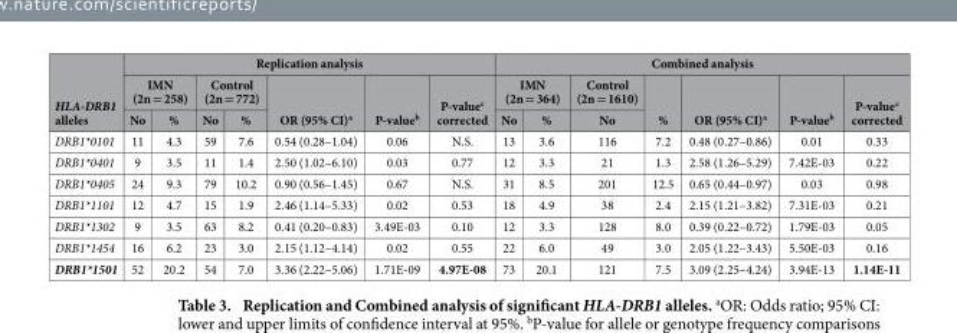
<table><thead><tr><td rowspan="3">HLA-DRB1 alleles</td><td colspan="7">Replication analysis</td><td colspan="7">Combined analysis</td></tr><tr><td colspan="2">IMN (2n = 258)</td><td colspan="2">Control (2n = 772)</td><td rowspan="2">OR (95% CI)<sup>a</sup></td><td rowspan="2">P-value<sup>b</sup></td><td rowspan="2">P-value<sup>c</sup> corrected</td><td colspan="2">IMN (2n = 364)</td><td rowspan="2">Control (2n = 1610) No</td><td rowspan="2">%</td><td rowspan="2">OR (95% CI)<sup>a</sup></td><td rowspan="2">P-value<sup>b</sup></td><td rowspan="2">P-value<sup>c</sup> corrected</td></tr><tr><td>No</td><td>%</td><td>No</td><td>%</td><td>No</td><td>%</td></tr></thead><tbody><tr><td>DRB1*0101</td><td>11</td><td>4.3</td><td>59</td><td>7.6</td><td>0.54 (0.28–1.04)</td><td>0.06</td><td>N.S.</td><td>13</td><td>3.6</td><td>116</td><td>7.2</td><td>0.48 (0.27–0.86)</td><td>0.01</td><td>0.33</td></tr><tr><td>DRB1*0401</td><td>9</td><td>3.5</td><td>11</td><td>1.4</td><td>2.50 (1.02–6.10)</td><td>0.03</td><td>0.77</td><td>12</td><td>3.3</td><td>21</td><td>1.3</td><td>2.58 (1.26–5.29)</td><td>7.42E-03</td><td>0.22</td></tr><tr><td>DRB1*0405</td><td>24</td><td>9.3</td><td>79</td><td>10.2</td><td>0.90 (0.56–1.45)</td><td>0.67</td><td>N.S.</td><td>31</td><td>8.5</td><td>201</td><td>12.5</td><td>0.65 (0.44–0.97)</td><td>0.03</td><td>0.98</td></tr><tr><td>DRB1*1101</td><td>12</td><td>4.7</td><td>15</td><td>1.9</td><td>2.46 (1.14–5.33)</td><td>0.02</td><td>0.53</td><td>18</td><td>4.9</td><td>38</td><td>2.4</td><td>2.15 (1.21–3.82)</td><td>7.31E-03</td><td>0.21</td></tr><tr><td>DRB1*1302</td><td>9</td><td>3.5</td><td>63</td><td>8.2</td><td>0.41 (0.20–0.83)</td><td>3.49E-03</td><td>0.10</td><td>12</td><td>3.3</td><td>128</td><td>8.0</td><td>0.39 (0.22–0.72)</td><td>1.79E-03</td><td>0.05</td></tr><tr><td>DRB1*1454</td><td>16</td><td>6.2</td><td>23</td><td>3.0</td><td>2.15 (1.12–4.14)</td><td>0.02</td><td>0.55</td><td>22</td><td>6.0</td><td>49</td><td>3.0</td><td>2.05 (1.22–3.43)</td><td>5.50E-03</td><td>0.16</td></tr><tr><td>DRB1*1501</td><td>52</td><td>20.2</td><td>54</td><td>7.0</td><td>3.36 (2.22–5.06)</td><td>1.71E-09</td><td>4.97E-08</td><td>73</td><td>20.1</td><td>121</td><td>7.5</td><td>3.09 (2.25–4.24)</td><td>3.94E-13</td><td>1.14E-11</td></tr></tbody></table>